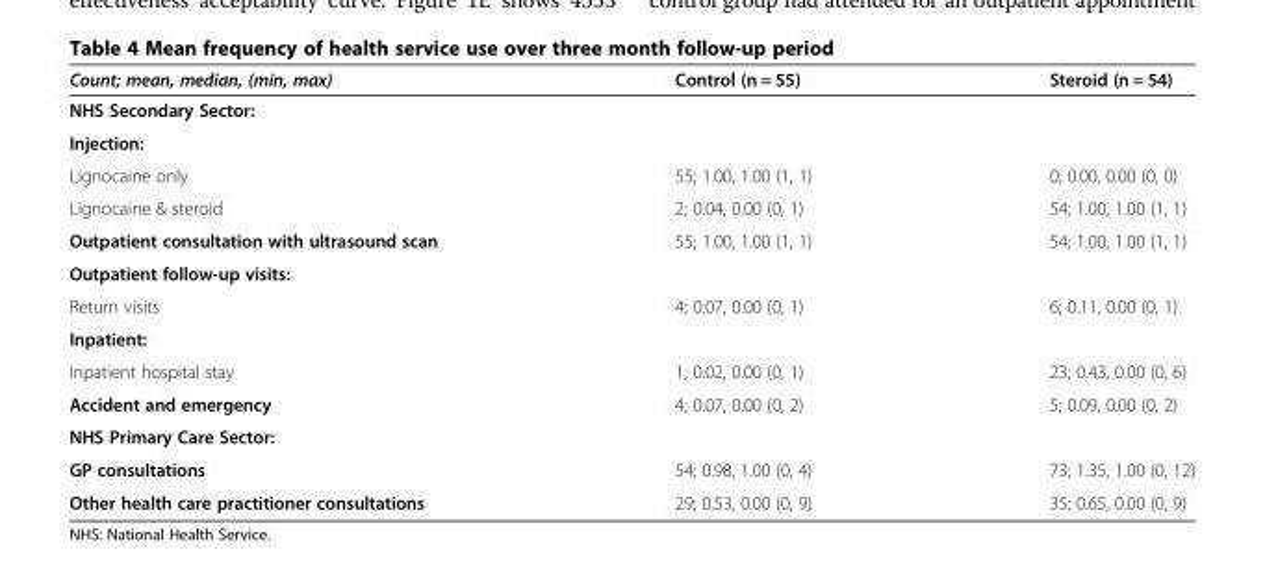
<table><thead><tr><td>Count; mean, median, (min, max)</td><td>Control (n = 55)</td><td>Steroid (n = 54)</td></tr></thead><tbody><tr><td colspan="3">NHS Secondary Sector:</td></tr><tr><td colspan="3">Injection:</td></tr><tr><td>Lignocaine only</td><td>55; 1.00, 1.00 (1, 1)</td><td>0; 0.00, 0.00 (0, 0)</td></tr><tr><td>Lignocaine &amp; steroid</td><td>2; 0.04, 0.00 (0, 1)</td><td>54; 1.00, 1.00 (1, 1)</td></tr><tr><td>Outpatient consultation with ultrasound scan</td><td>55; 1.00, 1.00 (1, 1)</td><td>54; 1.00, 1.00 (1, 1)</td></tr><tr><td colspan="3">Outpatient follow-up visits:</td></tr><tr><td>Return visits</td><td>4; 0.07, 0.00 (0, 1)</td><td>6; 0.11, 0.00 (0, 1)</td></tr><tr><td colspan="3">Inpatient:</td></tr><tr><td>Inpatient hospital stay</td><td>1; 0.02, 0.00 (0, 1)</td><td>23; 0.43, 0.00 (0, 6)</td></tr><tr><td>Accident and emergency</td><td>4; 0.07, 0.00 (0, 2)</td><td>5; 0.09, 0.00 (0, 2)</td></tr><tr><td colspan="3">NHS Primary Care Sector:</td></tr><tr><td>GP consultations</td><td>54; 0.98, 1.00 (0, 4)</td><td>73; 1.35, 1.00 (0, 12)</td></tr><tr><td>Other health care practitioner consultations</td><td>29; 0.53, 0.00 (0, 9)</td><td>35; 0.65, 0.00 (0, 9)</td></tr></tbody></table>